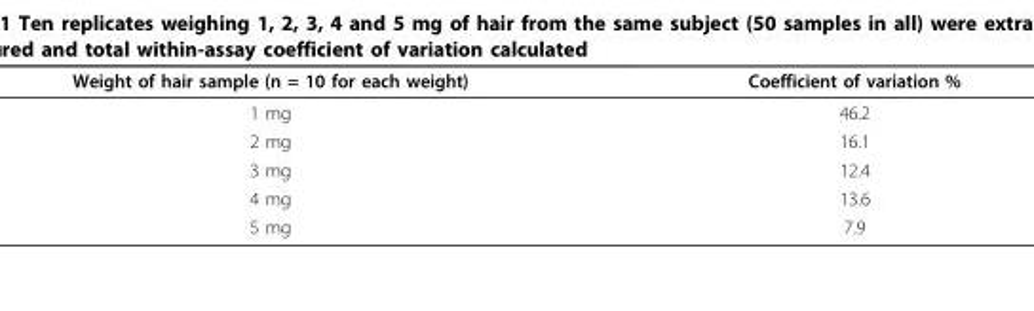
<table><thead><tr><td>Weight of hair sample (n = 10 for each weight)</td><td>Coefficient of variation %</td></tr></thead><tbody><tr><td>1 mg</td><td>46.2</td></tr><tr><td>2 mg</td><td>16.1</td></tr><tr><td>3 mg</td><td>12.4</td></tr><tr><td>4 mg</td><td>13.6</td></tr><tr><td>5 mg</td><td>7.9</td></tr></tbody></table>